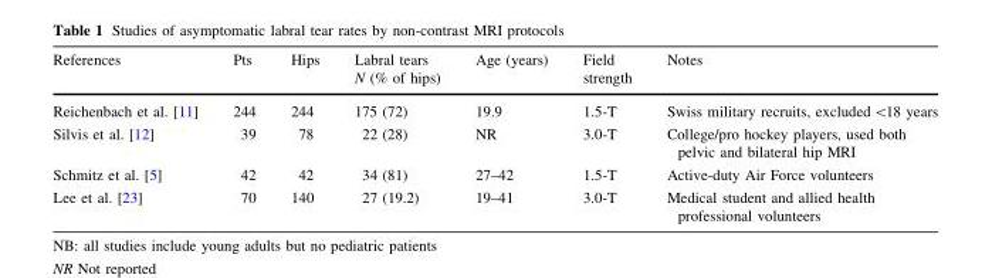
<table><thead><tr><td>References</td><td>Pts</td><td>Hips</td><td>Labral tears N (% of hips)</td><td>Age (years)</td><td>Field strength</td><td>Notes</td></tr></thead><tbody><tr><td>Reichenbach et al. [11]</td><td>244</td><td>244</td><td>175 (72)</td><td>19.9</td><td>1.5-T</td><td>Swiss military recruits, excluded &lt;18 years</td></tr><tr><td>Silvis et al. [12]</td><td>39</td><td>78</td><td>22 (28)</td><td>NR</td><td>3.0-T</td><td>College/pro hockey players, used both pelvic and bilateral hip MRI</td></tr><tr><td>Schmitz et al. [5]</td><td>42</td><td>42</td><td>34 (81)</td><td>27–42</td><td>1.5-T</td><td>Active-duty Air Force volunteers</td></tr><tr><td>Lee et al. [23]</td><td>70</td><td>140</td><td>27 (19.2)</td><td>19–41</td><td>3.0-T</td><td>Medical student and allied health professional volunteers</td></tr></tbody></table>